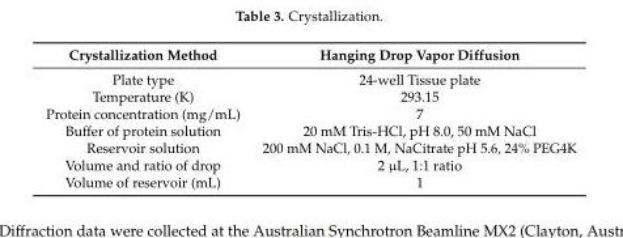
<table><thead><tr><td>Crystallization Method</td><td>Hanging Drop Vapor Diffusion</td></tr></thead><tbody><tr><td>Plate type</td><td>24-well Tissue plate</td></tr><tr><td>Temperature (K)</td><td>293.15</td></tr><tr><td>Protein concentration (mg/mL)</td><td>7</td></tr><tr><td>Buffer of protein solution</td><td>20 mM Tris-HCl, pH 8.0, 50 mM NaCl</td></tr><tr><td>Reservoir solution</td><td>200 mM NaCl, 0.1 M, NaCitrate pH 5.6, 24% PEG4K</td></tr><tr><td>Volume and ratio of drop</td><td>2 µL, 1:1 ratio</td></tr><tr><td>Volume of reservoir (mL)</td><td>1</td></tr></tbody></table>